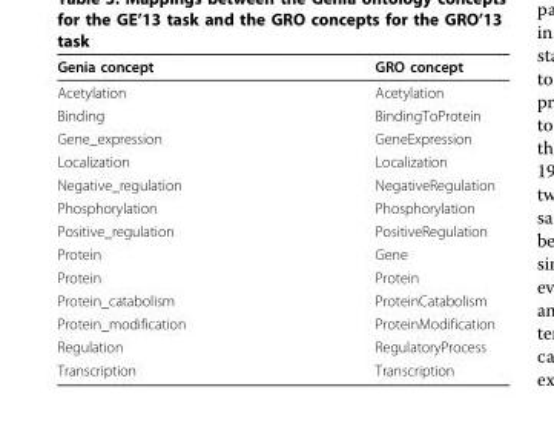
<table><thead><tr><td>Genia concept</td><td>GRO concept</td></tr></thead><tbody><tr><td>Acetylation</td><td>Acetylation</td></tr><tr><td>Binding</td><td>BindingToProtein</td></tr><tr><td>Gene_expression</td><td>GeneExpression</td></tr><tr><td>Localization</td><td>Localization</td></tr><tr><td>Negative_regulation</td><td>NegativeRegulation</td></tr><tr><td>Phosphorylation</td><td>Phosphorylation</td></tr><tr><td>Positive_regulation</td><td>PositiveRegulation</td></tr><tr><td>Protein</td><td>Gene</td></tr><tr><td>Protein</td><td>Protein</td></tr><tr><td>Protein_catabolism</td><td>ProteinCatabolism</td></tr><tr><td>Protein_modification</td><td>ProteinModification</td></tr><tr><td>Regulation</td><td>RegulatoryProcess</td></tr><tr><td>Transcription</td><td>Transcription</td></tr></tbody></table>